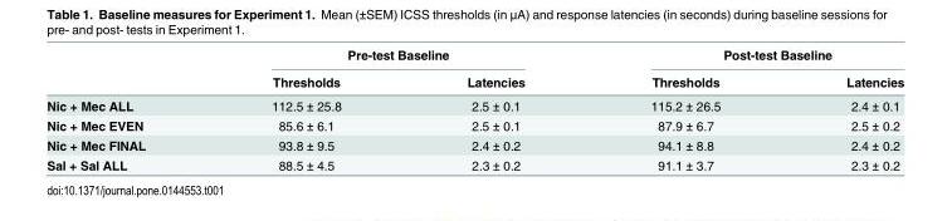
<table><thead><tr><td rowspan="2"></td><td colspan="2">Pre-test Baseline</td><td colspan="2">Post-test Baseline</td></tr><tr><td>Thresholds</td><td>Latencies</td><td>Thresholds</td><td>Latencies</td></tr></thead><tbody><tr><td>Nic + Mec ALL</td><td>112.5 ± 25.8</td><td>2.5 ± 0.1</td><td>115.2 ± 26.5</td><td>2.4 ± 0.1</td></tr><tr><td>Nic + Mec EVEN</td><td>85.6 ± 6.1</td><td>2.5 ± 0.1</td><td>87.9 ± 6.7</td><td>2.5 ± 0.2</td></tr><tr><td>Nic + Mec FINAL</td><td>93.8 ± 9.5</td><td>2.4 ± 0.2</td><td>94.1 ± 8.8</td><td>2.4 ± 0.2</td></tr><tr><td>Sal + Sal ALL</td><td>88.5 ± 4.5</td><td>2.3 ± 0.2</td><td>91.1 ± 3.7</td><td>2.3 ± 0.2</td></tr></tbody></table>